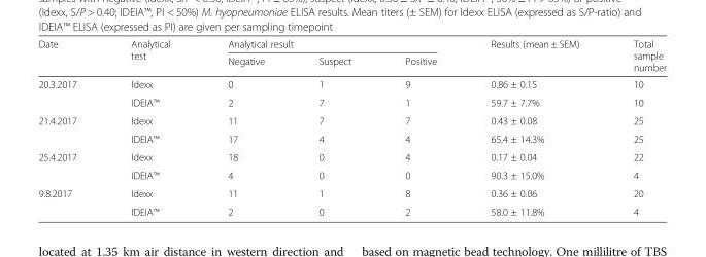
<table><thead><tr><td rowspan="2">Date</td><td rowspan="2">Analytical test</td><td colspan="3">Analytical result</td><td rowspan="2">Results (mean ± SEM)</td><td rowspan="2">Total sample number</td></tr><tr><td>Negative</td><td>Suspect</td><td>Positive</td></tr></thead><tbody><tr><td rowspan="2">20.3.2017</td><td>Idexx</td><td>0</td><td>1</td><td>9</td><td>0.86 ± 0.15</td><td>10</td></tr><tr><td>IDEIA™</td><td>2</td><td>7</td><td>1</td><td>59.7 ± 7.7%</td><td>10</td></tr><tr><td rowspan="2">21.4.2017</td><td>Idexx</td><td>11</td><td>7</td><td>7</td><td>0.43 ± 0.08</td><td>25</td></tr><tr><td>IDEIA™</td><td>17</td><td>4</td><td>4</td><td>65.4 ± 14.3%</td><td>25</td></tr><tr><td rowspan="2">25.4.2017</td><td>Idexx</td><td>18</td><td>0</td><td>4</td><td>0.17 ± 0.04</td><td>22</td></tr><tr><td>IDEIA™</td><td>4</td><td>0</td><td>0</td><td>90.3 ± 15.0%</td><td>4</td></tr><tr><td rowspan="2">9.8.2017</td><td>Idexx</td><td>11</td><td>1</td><td>8</td><td>0.36 ± 0.06</td><td>20</td></tr><tr><td>IDEIA™</td><td>2</td><td>0</td><td>2</td><td>58.0 ± 11.8%</td><td>4</td></tr></tbody></table>